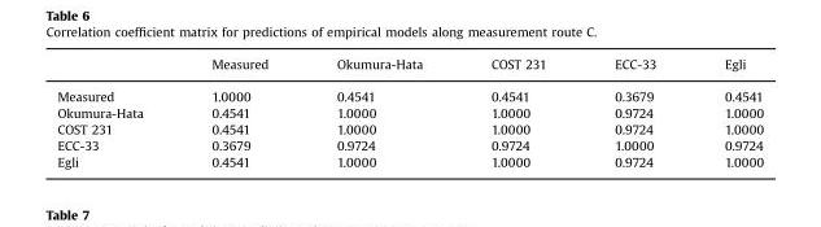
<table><thead><tr><td></td><td>Measured</td><td>Okumura-Hata</td><td>COST 231</td><td>ECC-33</td><td>Egli</td></tr></thead><tbody><tr><td>Measured</td><td>1.0000</td><td>0.4541</td><td>0.4541</td><td>0.3679</td><td>0.4541</td></tr><tr><td>Okumura-Hata</td><td>0.4541</td><td>1.0000</td><td>1.0000</td><td>0.9724</td><td>1.0000</td></tr><tr><td>COST 231</td><td>0.4541</td><td>1.0000</td><td>1.0000</td><td>0.9724</td><td>1.0000</td></tr><tr><td>ECC-33</td><td>0.3679</td><td>0.9724</td><td>0.9724</td><td>1.0000</td><td>0.9724</td></tr><tr><td>Egli</td><td>0.4541</td><td>1.0000</td><td>1.0000</td><td>0.9724</td><td>1.0000</td></tr></tbody></table>